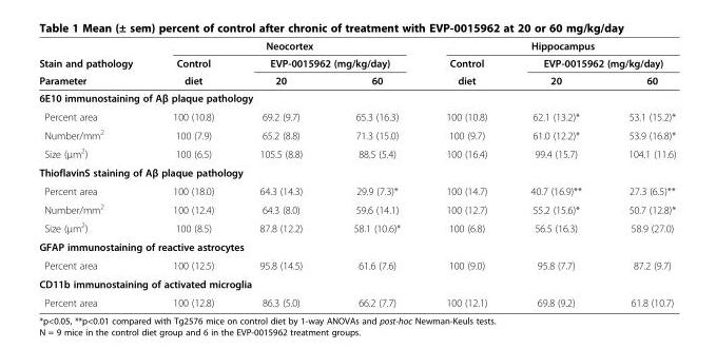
<table><thead><tr><td rowspan="3">Stain and pathology Parameter</td><td colspan="3">Neocortex</td><td colspan="3">Hippocampus</td></tr><tr><td rowspan="2">Control diet</td><td colspan="2">EVP-0015962 (mg/kg/day)</td><td rowspan="2">Control diet</td><td colspan="2">EVP-0015962 (mg/kg/day)</td></tr><tr><td>20</td><td>60</td><td>20</td><td>60</td></tr></thead><tbody><tr><td colspan="7">6E10 immunostaining of Aβ plaque pathology</td></tr><tr><td>Percent area</td><td>100 (10.8)</td><td>69.2 (9.7)</td><td>65.3 (16.3)</td><td>100 (10.8)</td><td>62.1 (13.2)*</td><td>53.1 (15.2)*</td></tr><tr><td>Number/mm<sup>2</sup></td><td>100 (7.9)</td><td>65.2 (8.8)</td><td>71.3 (15.0)</td><td>100 (9.7)</td><td>61.0 (12.2)*</td><td>53.9 (16.8)*</td></tr><tr><td>Size (μm<sup>2</sup>)</td><td>100 (6.5)</td><td>105.5 (8.8)</td><td>88.5 (5.4)</td><td>100 (16.4)</td><td>99.4 (15.7)</td><td>104.1 (11.6)</td></tr><tr><td colspan="7">ThioflavinS staining of Aβ plaque pathology</td></tr><tr><td>Percent area</td><td>100 (18.0)</td><td>64.3 (14.3)</td><td>29.9 (7.3)*</td><td>100 (14.7)</td><td>40.7 (16.9)**</td><td>27.3 (6.5)**</td></tr><tr><td>Number/mm<sup>2</sup></td><td>100 (12.4)</td><td>64.3 (8.0)</td><td>59.6 (14.1)</td><td>100 (12.7)</td><td>55.2 (15.6)*</td><td>50.7 (12.8)*</td></tr><tr><td>Size (μm<sup>2</sup>)</td><td>100 (8.5)</td><td>87.8 (12.2)</td><td>58.1 (10.6)*</td><td>100 (6.8)</td><td>56.5 (16.3)</td><td>58.9 (27.0)</td></tr><tr><td colspan="7">GFAP immunostaining of reactive astrocytes</td></tr><tr><td>Percent area</td><td>100 (12.5)</td><td>95.8 (14.5)</td><td>61.6 (7.6)</td><td>100 (9.0)</td><td>95.8 (7.7)</td><td>87.2 (9.7)</td></tr><tr><td colspan="7">CD11b immunostaining of activated microglia</td></tr><tr><td>Percent area</td><td>100 (12.8)</td><td>86.3 (5.0)</td><td>66.2 (7.7)</td><td>100 (12.1)</td><td>69.8 (9.2)</td><td>61.8 (10.7)</td></tr></tbody></table>